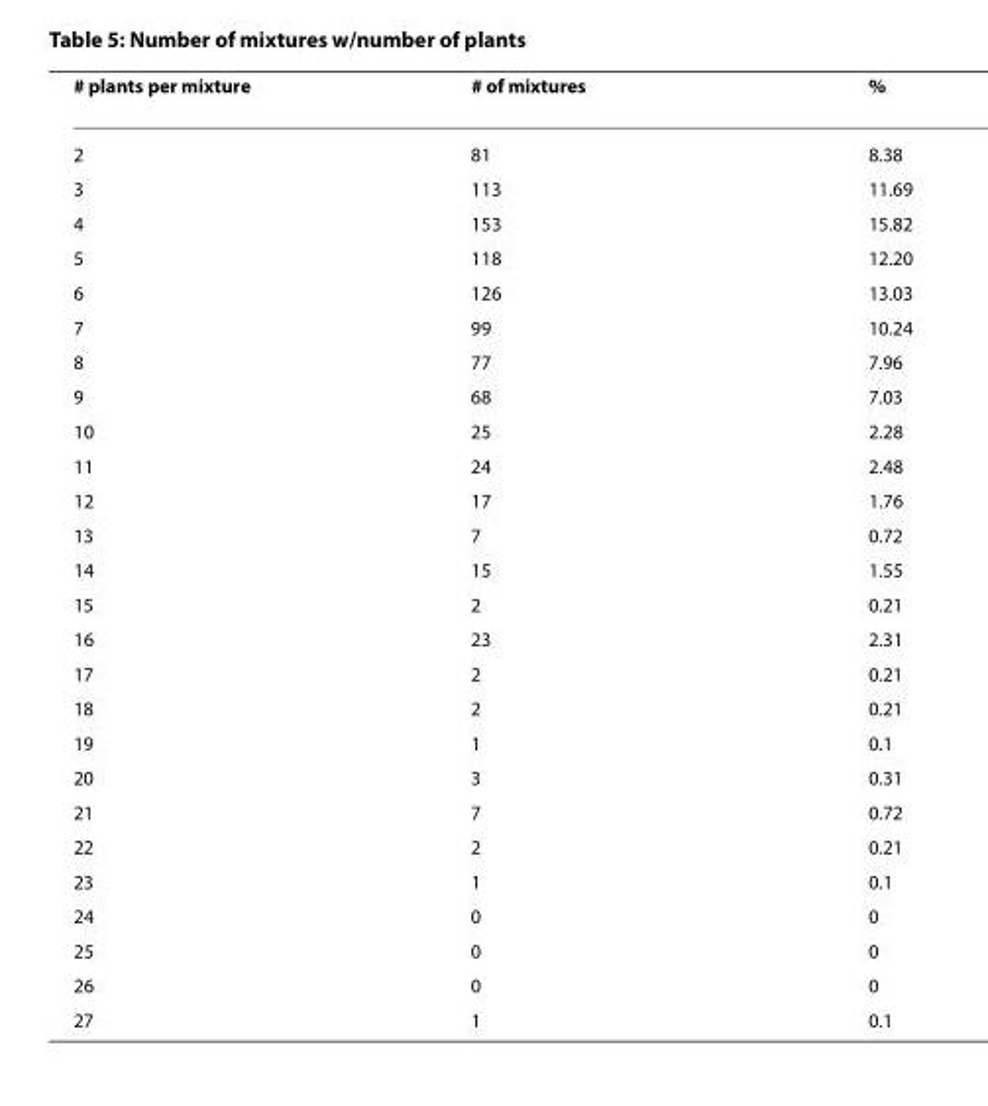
<table><thead><tr><td># plants per mixture</td><td># of mixtures</td><td>%</td></tr></thead><tbody><tr><td>2</td><td>81</td><td>8.38</td></tr><tr><td>3</td><td>113</td><td>11.69</td></tr><tr><td>4</td><td>153</td><td>15.82</td></tr><tr><td>5</td><td>118</td><td>12.20</td></tr><tr><td>6</td><td>126</td><td>13.03</td></tr><tr><td>7</td><td>99</td><td>10.24</td></tr><tr><td>8</td><td>77</td><td>7.96</td></tr><tr><td>9</td><td>68</td><td>7.03</td></tr><tr><td>10</td><td>25</td><td>2.28</td></tr><tr><td>11</td><td>24</td><td>2.48</td></tr><tr><td>12</td><td>17</td><td>1.76</td></tr><tr><td>13</td><td>7</td><td>0.72</td></tr><tr><td>14</td><td>15</td><td>1.55</td></tr><tr><td>15</td><td>2</td><td>0.21</td></tr><tr><td>16</td><td>23</td><td>2.31</td></tr><tr><td>17</td><td>2</td><td>0.21</td></tr><tr><td>18</td><td>2</td><td>0.21</td></tr><tr><td>19</td><td>1</td><td>0.1</td></tr><tr><td>20</td><td>3</td><td>0.31</td></tr><tr><td>21</td><td>7</td><td>0.72</td></tr><tr><td>22</td><td>2</td><td>0.21</td></tr><tr><td>23</td><td>1</td><td>0.1</td></tr><tr><td>24</td><td>0</td><td>0</td></tr><tr><td>25</td><td>0</td><td>0</td></tr><tr><td>26</td><td>0</td><td>0</td></tr><tr><td>27</td><td>1</td><td>0.1</td></tr></tbody></table>